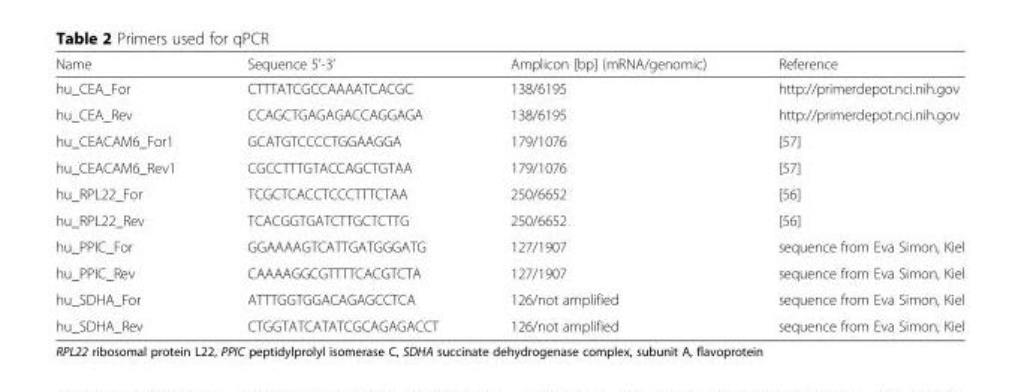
<table><thead><tr><td>Name</td><td>Sequence 5’-3’</td><td>Amplicon [bp] (mRNA/genomic)</td><td>Reference</td></tr></thead><tbody><tr><td>hu_CEA_For</td><td>CTTTATCGCCAAAATCACGC</td><td>138/6195</td><td>http://primerdepot.nci.nih.gov</td></tr><tr><td>hu_CEA_Rev</td><td>CCAGCTGAGAGACCAGGAGA</td><td>138/6195</td><td>http://primerdepot.nci.nih.gov</td></tr><tr><td>hu_CEACAM6_For1</td><td>GCATGTCCCCTGGAAGGA</td><td>179/1076</td><td>[57]</td></tr><tr><td>hu_CEACAM6_Rev1</td><td>CGCCTTTGTACCAGCTGTAA</td><td>179/1076</td><td>[57]</td></tr><tr><td>hu_RPL22_For</td><td>TCGCTCACCTCCCTTTCTAA</td><td>250/6652</td><td>[56]</td></tr><tr><td>hu_RPL22_Rev</td><td>TCACGGTGATCTTGCTCTTG</td><td>250/6652</td><td>[56]</td></tr><tr><td>hu_PPIC_For</td><td>GGAAAAGTCATTGATGGGATG</td><td>127/1907</td><td>sequence from Eva Simon, Kiel</td></tr><tr><td>hu_PPIC_Rev</td><td>CAAAAGGCGTTTTCACGTCTA</td><td>127/1907</td><td>sequence from Eva Simon, Kiel</td></tr><tr><td>hu_SDHA_For</td><td>ATTTGGTGGACAGAGCCTCA</td><td>126/not amplified</td><td>sequence from Eva Simon, Kiel</td></tr><tr><td>hu_SDHA_Rev</td><td>CTGGTATCATATCGCAGAGACCT</td><td>126/not amplified</td><td>sequence from Eva Simon, Kiel</td></tr></tbody></table>